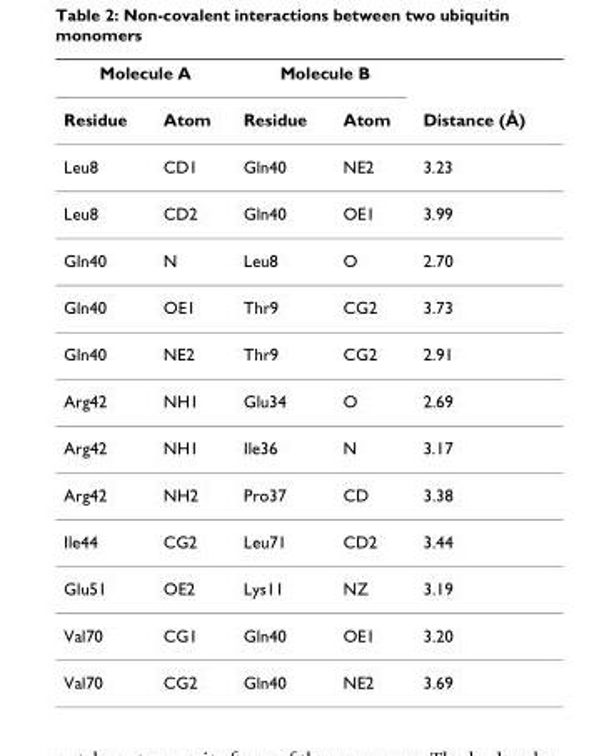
<table><thead><tr><td colspan="2">Molecule A</td><td colspan="2">Molecule B</td><td rowspan="2">Distance (Å)</td></tr><tr><td>Residue</td><td>Atom</td><td>Residue</td><td>Atom</td></tr></thead><tbody><tr><td>Leu8</td><td>CD1</td><td>Gln40</td><td>NE2</td><td>3.23</td></tr><tr><td>Leu8</td><td>CD2</td><td>Gln40</td><td>OE1</td><td>3.99</td></tr><tr><td>Gln40</td><td>N</td><td>Leu8</td><td>O</td><td>2.70</td></tr><tr><td>Gln40</td><td>OE1</td><td>Thr9</td><td>CG2</td><td>3.73</td></tr><tr><td>Gln40</td><td>NE2</td><td>Thr9</td><td>CG2</td><td>2.91</td></tr><tr><td>Arg42</td><td>NH1</td><td>Glu34</td><td>O</td><td>2.69</td></tr><tr><td>Arg42</td><td>NH1</td><td>Ile36</td><td>N</td><td>3.17</td></tr><tr><td>Arg42</td><td>NH2</td><td>Pro37</td><td>CD</td><td>3.38</td></tr><tr><td>Ile44</td><td>CG2</td><td>Leu71</td><td>CD2</td><td>3.44</td></tr><tr><td>Glu51</td><td>OE2</td><td>Lys11</td><td>NZ</td><td>3.19</td></tr><tr><td>Val70</td><td>CG1</td><td>Gln40</td><td>OE1</td><td>3.20</td></tr><tr><td>Val70</td><td>CG2</td><td>Gln40</td><td>NE2</td><td>3.69</td></tr></tbody></table>